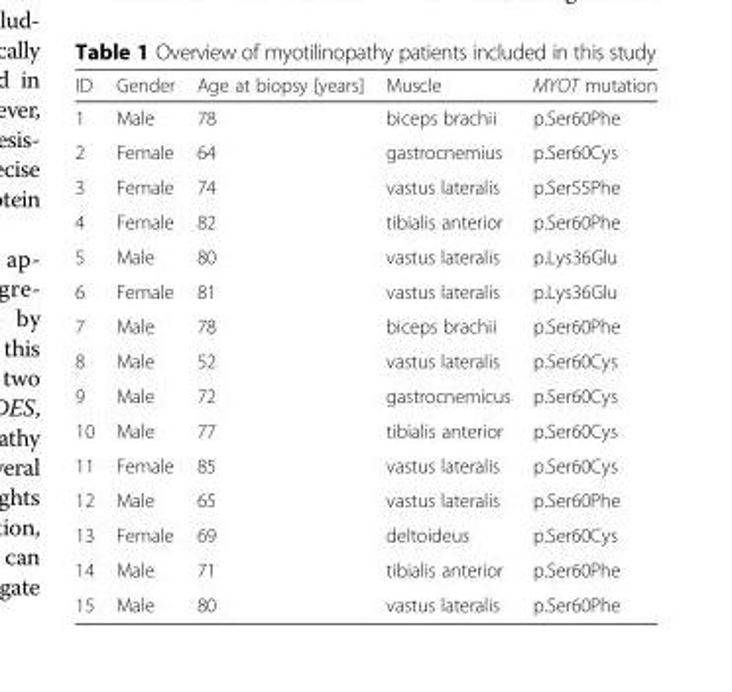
<table><thead><tr><td>ID</td><td>Gender</td><td>Age at biopsy [years]</td><td>Muscle</td><td>MYOT mutation</td></tr></thead><tbody><tr><td>1</td><td>Male</td><td>78</td><td>biceps brachii</td><td>p.Ser60Phe</td></tr><tr><td>2</td><td>Female</td><td>64</td><td>gastrocnemius</td><td>p.Ser60Cys</td></tr><tr><td>3</td><td>Female</td><td>74</td><td>vastus lateralis</td><td>p.Ser55Phe</td></tr><tr><td>4</td><td>Female</td><td>82</td><td>tibialis anterior</td><td>p.Ser60Phe</td></tr><tr><td>5</td><td>Male</td><td>80</td><td>vastus lateralis</td><td>p.Lys36Glu</td></tr><tr><td>6</td><td>Female</td><td>81</td><td>vastus lateralis</td><td>p.Lys36Glu</td></tr><tr><td>7</td><td>Male</td><td>78</td><td>biceps brachii</td><td>p.Ser60Phe</td></tr><tr><td>8</td><td>Male</td><td>52</td><td>vastus lateralis</td><td>p.Ser60Cys</td></tr><tr><td>9</td><td>Male</td><td>72</td><td>gastrocnemicus</td><td>p.Ser60Cys</td></tr><tr><td>10</td><td>Male</td><td>77</td><td>tibialis anterior</td><td>p.Ser60Cys</td></tr><tr><td>11</td><td>Female</td><td>85</td><td>vastus lateralis</td><td>p.Ser60Cys</td></tr><tr><td>12</td><td>Male</td><td>65</td><td>vastus lateralis</td><td>p.Ser60Phe</td></tr><tr><td>13</td><td>Female</td><td>69</td><td>deltoideus</td><td>p.Ser60Cys</td></tr><tr><td>14</td><td>Male</td><td>71</td><td>tibialis anterior</td><td>p.Ser60Phe</td></tr><tr><td>15</td><td>Male</td><td>80</td><td>vastus lateralis</td><td>p.Ser60Phe</td></tr></tbody></table>